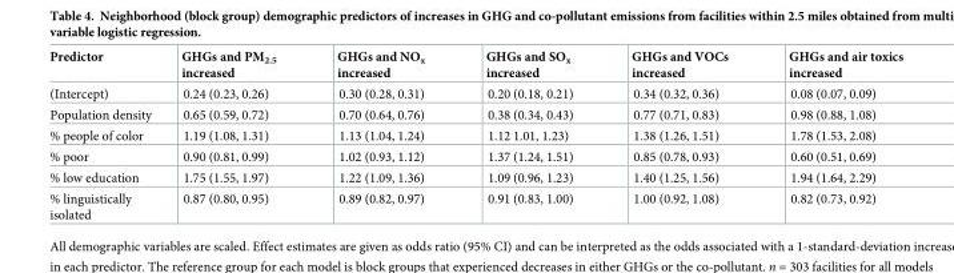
<table><thead><tr><td>Predictor</td><td>GHGs and PM<sub>2.5</sub> increased</td><td>GHGs and NO<sub>x</sub> increased</td><td>GHGs and SO<sub>x</sub> increased</td><td>GHGs and VOCs increased</td><td>GHGs and air toxics increased</td></tr></thead><tbody><tr><td>(Intercept)</td><td>0.24 (0.23, 0.26)</td><td>0.30 (0.28, 0.31)</td><td>0.20 (0.18, 0.21)</td><td>0.34 (0.32, 0.36)</td><td>0.08 (0.07, 0.09)</td></tr><tr><td>Population density</td><td>0.65 (0.59, 0.72)</td><td>0.70 (0.64, 0.76)</td><td>0.38 (0.34, 0.43)</td><td>0.77 (0.71, 0.83)</td><td>0.98 (0.88, 1.08)</td></tr><tr><td>% people of color</td><td>1.19 (1.08, 1.31)</td><td>1.13 (1.04, 1.24)</td><td>1.12 1.01, 1.23)</td><td>1.38 (1.26, 1.51)</td><td>1.78 (1.53, 2.08)</td></tr><tr><td>% poor</td><td>0.90 (0.81, 0.99)</td><td>1.02 (0.93, 1.12)</td><td>1.37 (1.24, 1.51)</td><td>0.85 (0.78, 0.93)</td><td>0.60 (0.51, 0.69)</td></tr><tr><td>% low education</td><td>1.75 (1.55, 1.97)</td><td>1.22 (1.09, 1.36)</td><td>1.09 (0.96, 1.23)</td><td>1.40 (1.25, 1.56)</td><td>1.94 (1.64, 2.29)</td></tr><tr><td>% linguistically isolated</td><td>0.87 (0.80, 0.95)</td><td>0.89 (0.82, 0.97)</td><td>0.91 (0.83, 1.00)</td><td>1.00 (0.92, 1.08)</td><td>0.82 (0.73, 0.92)</td></tr></tbody></table>